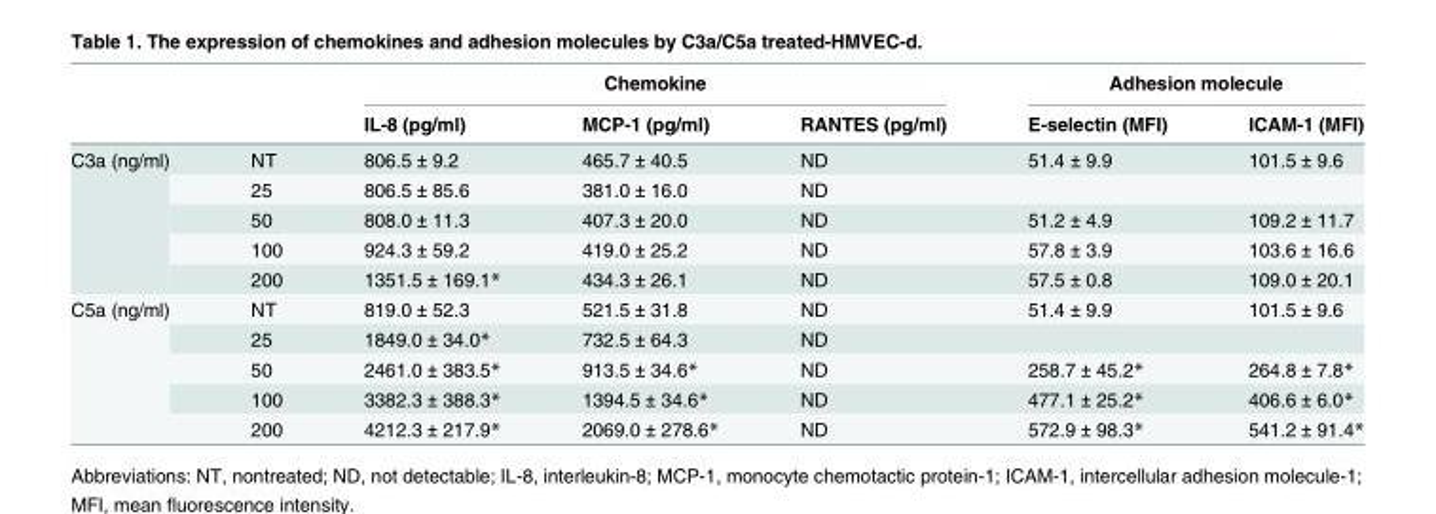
<table><thead><tr><td rowspan="2"></td><td rowspan="2"></td><td colspan="3">Chemokine</td><td colspan="2">Adhesion molecule</td></tr><tr><td>IL-8 (pg/ml)</td><td>MCP-1 (pg/ml)</td><td>RANTES (pg/ml)</td><td>E-selectin (MFI)</td><td>ICAM-1 (MFI)</td></tr></thead><tbody><tr><td rowspan="5">C3a (ng/ml)</td><td>NT</td><td>806.5 ± 9.2</td><td>465.7 ± 40.5</td><td>ND</td><td>51.4 ± 9.9</td><td>101.5 ± 9.6</td></tr><tr><td>25</td><td>806.5 ± 85.6</td><td>381.0 ± 16.0</td><td>ND</td><td></td><td></td></tr><tr><td>50</td><td>808.0 ± 11.3</td><td>407.3 ± 20.0</td><td>ND</td><td>51.2 ± 4.9</td><td>109.2 ± 11.7</td></tr><tr><td>100</td><td>924.3 ± 59.2</td><td>419.0 ± 25.2</td><td>ND</td><td>57.8 ± 3.9</td><td>103.6 ± 16.6</td></tr><tr><td>200</td><td>1351.5 ± 169.1*</td><td>434.3 ± 26.1</td><td>ND</td><td>57.5 ± 0.8</td><td>109.0 ± 20.1</td></tr><tr><td rowspan="5">C5a (ng/ml)</td><td>NT</td><td>819.0 ± 52.3</td><td>521.5 ± 31.8</td><td>ND</td><td>51.4 ± 9.9</td><td>101.5 ± 9.6</td></tr><tr><td>25</td><td>1849.0 ± 34.0*</td><td>732.5 ± 64.3</td><td>ND</td><td></td><td></td></tr><tr><td>50</td><td>2461.0 ± 383.5*</td><td>913.5 ± 34.6*</td><td>ND</td><td>258.7 ± 45.2*</td><td>264.8 ± 7.8*</td></tr><tr><td>100</td><td>3382.3 ± 388.3*</td><td>1394.5 ± 34.6*</td><td>ND</td><td>477.1 ± 25.2*</td><td>406.6 ± 6.0*</td></tr><tr><td>200</td><td>4212.3 ± 217.9*</td><td>2069.0 ± 278.6*</td><td>ND</td><td>572.9 ± 98.3*</td><td>541.2 ± 91.4*</td></tr></tbody></table>